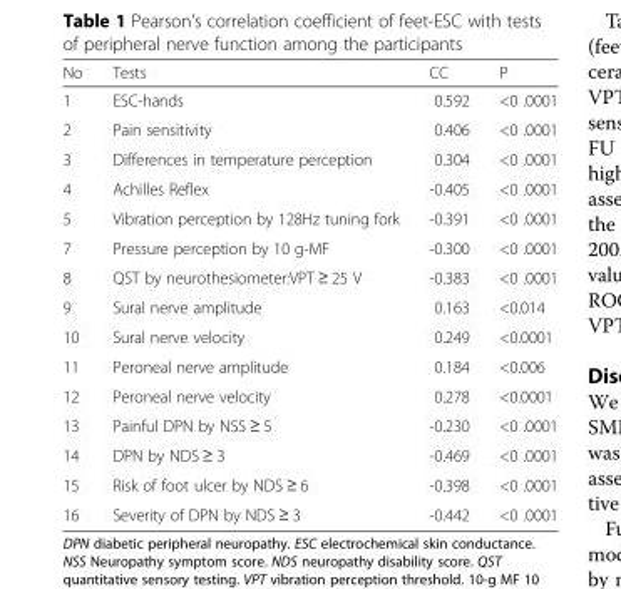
<table><thead><tr><td>No</td><td>Tests</td><td>CC</td><td>P</td></tr></thead><tbody><tr><td>1</td><td>ESC-hands</td><td>0.592</td><td>&lt;0 .0001</td></tr><tr><td>2</td><td>Pain sensitivity</td><td>0.406</td><td>&lt;0 .0001</td></tr><tr><td>3</td><td>Differences in temperature perception</td><td>0.304</td><td>&lt;0 .0001</td></tr><tr><td>4</td><td>Achilles Reflex</td><td>-0.405</td><td>&lt;0 .0001</td></tr><tr><td>5</td><td>Vibration perception by 128Hz tuning fork</td><td>-0.391</td><td>&lt;0 .0001</td></tr><tr><td>7</td><td>Pressure perception by 10 g-MF</td><td>-0.300</td><td>&lt;0 .0001</td></tr><tr><td>8</td><td>QST by neurothesiometer:VPT ≥ 25 V</td><td>-0.383</td><td>&lt;0 .0001</td></tr><tr><td>9</td><td>Sural nerve amplitude</td><td>0.163</td><td>&lt;0.014</td></tr><tr><td>10</td><td>Sural nerve velocity</td><td>0.249</td><td>&lt;0.0001</td></tr><tr><td>11</td><td>Peroneal nerve amplitude</td><td>0.184</td><td>&lt;0.006</td></tr><tr><td>12</td><td>Peroneal nerve velocity</td><td>0.278</td><td>&lt;0.0001</td></tr><tr><td>13</td><td>Painful DPN by NSS ≥ 5</td><td>-0.230</td><td>&lt;0 .0001</td></tr><tr><td>14</td><td>DPN by NDS ≥ 3</td><td>-0.469</td><td>&lt;0 .0001</td></tr><tr><td>15</td><td>Risk of foot ulcer by NDS ≥ 6</td><td>-0.398</td><td>&lt;0 .0001</td></tr><tr><td>16</td><td>Severity of DPN by NDS ≥ 3</td><td>-0.442</td><td>&lt;0 .0001</td></tr></tbody></table>